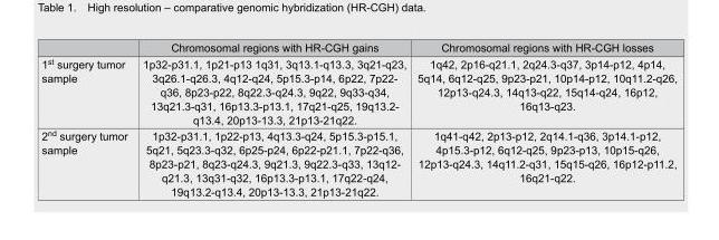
<table><thead><tr><td></td><td>Chromosomal regions with HR-CGH gains</td><td>Chromosomal regions with HR-CGH losses</td></tr></thead><tbody><tr><td>1<sup>st</sup> surgery tumor sample</td><td>1p32-p31.1, 1p21-p13 1q31, 3q13.1-q13.3, 3q21-q23, 3q26.1-q26.3, 4q12-q24, 5p15.3-p14, 6p22, 7p22- q36, 8p23-p22, 8q22.3-q24.3, 9q22, 9q33-q34, 13q21.3-q31, 16p13.3-p13.1, 17q21-q25, 19q13.2- q13.4, 20p13-13.3, 21p13-21q22.</td><td>1q42, 2p16-q21.1, 2q24.3-q37, 3p14-p12, 4p14, 5q14, 6q12-q25, 9p23-p21, 10p14-p12, 10q11.2-q26, 12p13-q24.3, 14q13-q22, 15q14-q24, 16p12, 16q13-q23.</td></tr><tr><td>2<sup>nd</sup> surgery tumor sample</td><td>1p32-p31.1, 1p22-p13, 4q13.3-q24, 5p15.3-p15.1, 5q21, 5q23.3-q32, 6p25-p24, 6p22-p21.1, 7p22-q36, 8p23-p21, 8q23-q24.3, 9q21.3, 9q22.3-q33, 13q12- q21.3, 13q31-q32, 16p13.3-p13.1, 17q22-q24, 19q13.2-q13.4, 20p13-13.3, 21p13-21q22.</td><td>1q41-q42, 2p13-p12, 2q14.1-q36, 3p14.1-p12, 4p15.3-p12, 6q12-q25, 9p23-p13, 10p15-q26, 12p13-q24.3, 14q11.2-q31, 15q15-q26, 16p12-p11.2, 16q21-q22.</td></tr></tbody></table>